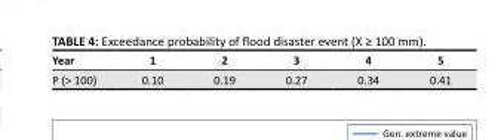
<table><thead><tr><td>Year</td><td>1</td><td>2</td><td>3</td><td>4</td><td>5</td></tr></thead><tbody><tr><td>P (&gt; 100)</td><td>0.10</td><td>0.19</td><td>0.27</td><td>0.34</td><td>0.41</td></tr></tbody></table>